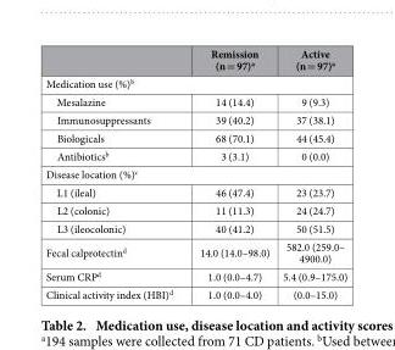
<table><thead><tr><td></td><td>Remission (n = 97)<sup>a</sup></td><td>Active (n = 97)<sup>a</sup></td></tr></thead><tbody><tr><td colspan="3">Medication use (%)<sup>b</sup></td></tr><tr><td>Mesalazine</td><td>14 (14.4)</td><td>9 (9.3)</td></tr><tr><td>Immunosuppressants</td><td>39 (40.2)</td><td>37 (38.1)</td></tr><tr><td>Biologicals</td><td>68 (70.1)</td><td>44 (45.4)</td></tr><tr><td>Antibiotics<sup>b</sup></td><td>3 (3.1)</td><td>0 (0.0)</td></tr><tr><td colspan="3">Disease location (%)<sup>c</sup></td></tr><tr><td>L1 (ileal)</td><td>46 (47.4)</td><td>23 (23.7)</td></tr><tr><td>L2 (colonic)</td><td>11 (11.3)</td><td>24 (24.7)</td></tr><tr><td>L3 (ileocolonic)</td><td>40 (41.2)</td><td>50 (51.5)</td></tr><tr><td>Fecal calprotectin<sup>d</sup></td><td>14.0 (14.0–98.0)</td><td>582.0 (259.0– 4900.0)</td></tr><tr><td>Serum CRP<sup>d</sup></td><td>1.0 (0.0–4.7)</td><td>5.4 (0.9–175.0)</td></tr><tr><td>Clinical activity index (HBI)<sup>d</sup></td><td>1.0 (0.0–4.0)</td><td>(0.0–15.0)</td></tr></tbody></table>